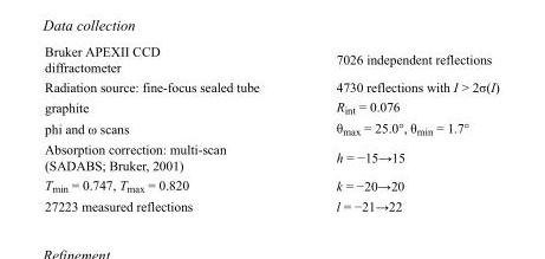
<table><tbody><tr><td>Bruker APEXII CCD diffractometer</td><td>7026 independent reflections</td></tr><tr><td>Radiation source: fine-focus sealed tube</td><td>4730 reflections with I &gt; 2σ(I)</td></tr><tr><td>graphite</td><td>R<sub>int</sub> = 0.076</td></tr><tr><td>phi and ω scans</td><td>θ<sub>max</sub> = 25.0°, θ<sub>min</sub> = 1.7°</td></tr><tr><td>Absorption correction: multi-scan (SADABS; Bruker, 2001)</td><td>h = −15→15</td></tr><tr><td>T<sub>min</sub> = 0.747, T<sub>max</sub> = 0.820</td><td>k = −20→20</td></tr><tr><td>27223 measured reflections</td><td>l = −21→22</td></tr></tbody></table>